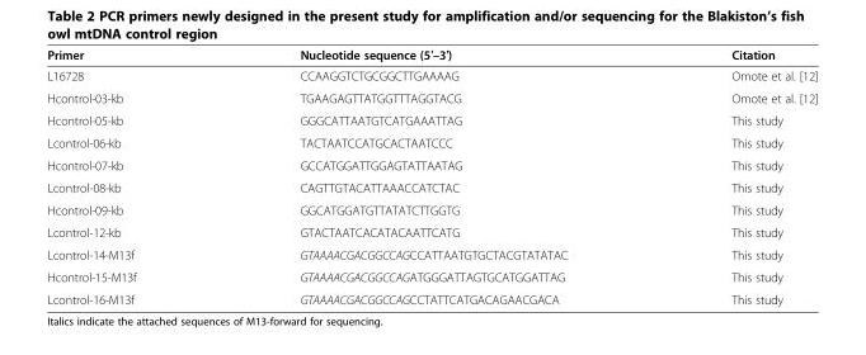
<table><thead><tr><td>Primer</td><td>Nucleotide sequence (5′–3′)</td><td>Citation</td></tr></thead><tbody><tr><td>L16728</td><td>CCAAGGTCTGCGGCTTGAAAAG</td><td>Omote et al. [12]</td></tr><tr><td>Hcontrol-03-kb</td><td>TGAAGAGTTATGGTTTAGGTACG</td><td>Omote et al. [12]</td></tr><tr><td>Hcontrol-05-kb</td><td>GGGCATTAATGTCATGAAATTAG</td><td>This study</td></tr><tr><td>Lcontrol-06-kb</td><td>TACTAATCCATGCACTAATCCC</td><td>This study</td></tr><tr><td>Hcontrol-07-kb</td><td>GCCATGGATTGGAGTATTAATAG</td><td>This study</td></tr><tr><td>Lcontrol-08-kb</td><td>CAGTTGTACATTAAACCATCTAC</td><td>This study</td></tr><tr><td>Hcontrol-09-kb</td><td>GGCATGGATGTTATATCTTGGTG</td><td>This study</td></tr><tr><td>Lcontrol-12-kb</td><td>GTACTAATCACATACAATTCATG</td><td>This study</td></tr><tr><td>Lcontrol-14-M13f</td><td>GTAAAACGACGGCCAGCCATTAATGTGCTACGTATATAC</td><td>This study</td></tr><tr><td>Hcontrol-15-M13f</td><td>GTAAAACGACGGCCAGATGGGATTAGTGCATGGATTAG</td><td>This study</td></tr><tr><td>Lcontrol-16-M13f</td><td>GTAAAACGACGGCCAGCCTATTCATGACAGAACGACA</td><td>This study</td></tr></tbody></table>